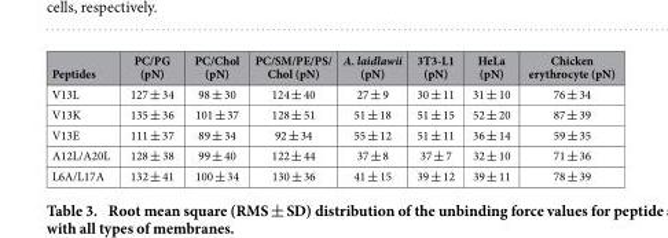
<table><thead><tr><td>Peptides</td><td>PC/PG (pN)</td><td>PC/Chol (pN)</td><td>PC/SM/PE/PS/ Chol (pN)</td><td>A. laidlawii (pN)</td><td>3T3-L1 (pN)</td><td>HeLa (pN)</td><td>Chicken erythrocyte (pN)</td></tr></thead><tbody><tr><td>V13L</td><td>127 ± 34</td><td>98 ± 30</td><td>124 ± 40</td><td>27 ± 9</td><td>30 ± 11</td><td>31 ± 10</td><td>76 ± 34</td></tr><tr><td>V13K</td><td>135 ± 36</td><td>101 ± 37</td><td>128 ± 51</td><td>51 ± 18</td><td>51 ± 15</td><td>52 ± 20</td><td>87 ± 39</td></tr><tr><td>V13E</td><td>111 ± 37</td><td>89 ± 34</td><td>92 ± 34</td><td>55 ± 12</td><td>51 ± 11</td><td>36 ± 14</td><td>59 ± 35</td></tr><tr><td>A12L/A20L</td><td>128 ± 38</td><td>99 ± 40</td><td>122 ± 44</td><td>37 ± 8</td><td>37 ± 7</td><td>32 ± 10</td><td>71 ± 36</td></tr><tr><td>L6A/L17A</td><td>132 ± 41</td><td>100 ± 34</td><td>130 ± 36</td><td>41 ± 15</td><td>39 ± 12</td><td>39 ± 11</td><td>78 ± 39</td></tr></tbody></table>